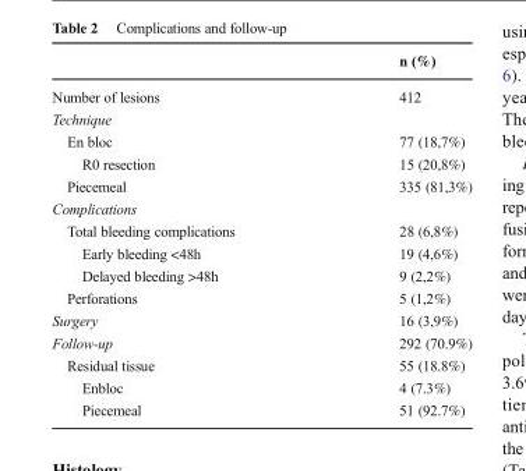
<table><thead><tr><td></td><td>n (%)</td></tr></thead><tbody><tr><td>Number of lesions</td><td>412</td></tr><tr><td colspan="2">Technique</td></tr><tr><td>En bloc</td><td>77 (18,7%)</td></tr><tr><td>R0 resection</td><td>15 (20,8%)</td></tr><tr><td>Piecemeal</td><td>335 (81,3%)</td></tr><tr><td colspan="2">Complications</td></tr><tr><td>Total bleeding complications</td><td>28 (6,8%)</td></tr><tr><td>Early bleeding &lt;48h</td><td>19 (4,6%)</td></tr><tr><td>Delayed bleeding &gt;48h</td><td>9 (2,2%)</td></tr><tr><td>Perforations</td><td>5 (1,2%)</td></tr><tr><td>Surgery</td><td>16 (3,9%)</td></tr><tr><td>Follow-up</td><td>292 (70.9%)</td></tr><tr><td>Residual tissue</td><td>55 (18.8%)</td></tr><tr><td>Enbloc</td><td>4 (7.3%)</td></tr><tr><td>Piecemeal</td><td>51 (92.7%)</td></tr></tbody></table>